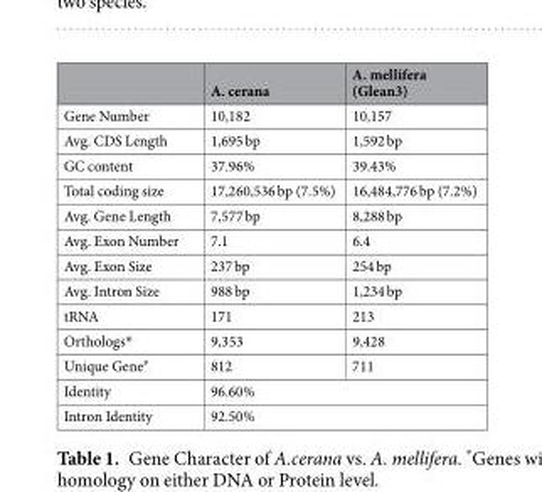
<table><thead><tr><td></td><td>A. cerana</td><td>A. mellifera (Glean3)</td></tr></thead><tbody><tr><td>Gene Number</td><td>10,182</td><td>10,157</td></tr><tr><td>Avg. CDS Length</td><td>1,695 bp</td><td>1,592 bp</td></tr><tr><td>GC content</td><td>37.96%</td><td>39.43%</td></tr><tr><td>Total coding size</td><td>17,260,536 bp (7.5%)</td><td>16,484,776 bp (7.2%)</td></tr><tr><td>Avg. Gene Length</td><td>7,577 bp</td><td>8,288 bp</td></tr><tr><td>Avg. Exon Number</td><td>7.1</td><td>6.4</td></tr><tr><td>Avg. Exon Size</td><td>237 bp</td><td>254 bp</td></tr><tr><td>Avg. Intron Size</td><td>988 bp</td><td>1,234 bp</td></tr><tr><td>tRNA</td><td>171</td><td>213</td></tr><tr><td>Orthologs*</td><td>9,353</td><td>9,428</td></tr><tr><td>Unique Gene#</td><td>812</td><td>711</td></tr><tr><td>Identity</td><td colspan="2">96.60%</td></tr><tr><td>Intron Identity</td><td colspan="2">92.50%</td></tr></tbody></table>